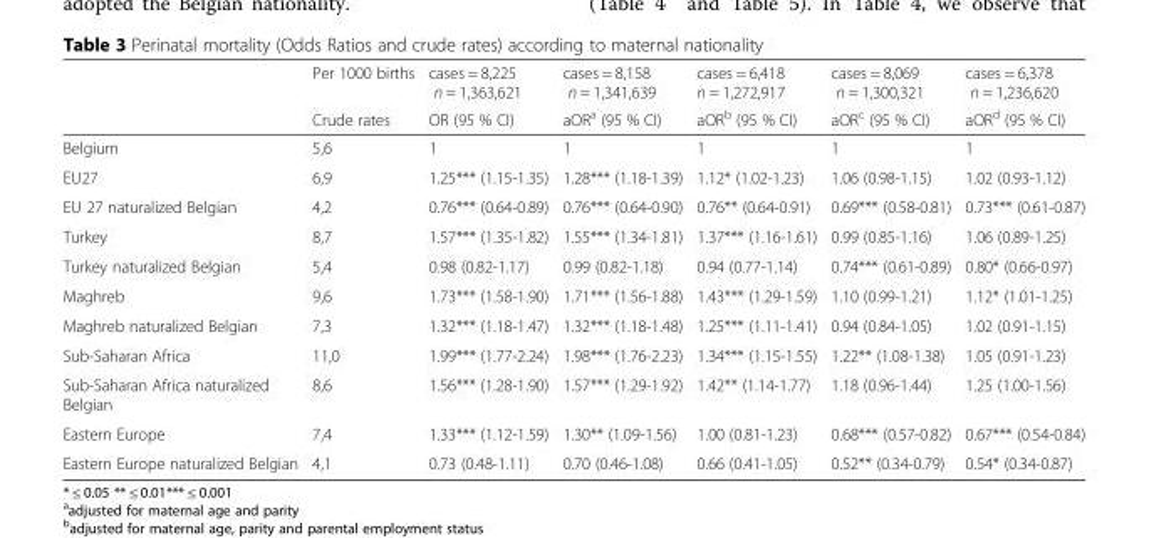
<table><thead><tr><td rowspan="2"></td><td rowspan="2">Per 1000 births Crude rates</td><td rowspan="2">cases = 8,225 n = 1,363,621 OR (95 % CI)</td><td rowspan="2">cases = 8,158 n = 1,341,639 aOR<sup>a</sup> (95 % CI)</td><td rowspan="2">cases = 6,418 n = 1,272,917 aOR<sup>b</sup> (95 % CI)</td><td rowspan="2">cases = 8,069 n = 1,300,321 aOR<sup>c</sup> (95 % CI)</td><td rowspan="2">cases = 6,378 n = 1,236,620 aOR<sup>d</sup> (95 % CI)</td></tr><tr></tr></thead><tbody><tr><td>Belgium</td><td>5,6</td><td>1</td><td>1</td><td>1</td><td>1</td><td>1</td></tr><tr><td>EU27</td><td>6,9</td><td>1.25*** (1.15-1.35)</td><td>1.28*** (1.18-1.39)</td><td>1.12* (1.02-1.23)</td><td>1.06 (0.98-1.15)</td><td>1.02 (0.93-1.12)</td></tr><tr><td>EU 27 naturalized Belgian</td><td>4,2</td><td>0.76*** (0.64-0.89)</td><td>0.76*** (0.64-0.90)</td><td>0.76** (0.64-0.91)</td><td>0.69*** (0.58-0.81)</td><td>0.73*** (0.61-0.87)</td></tr><tr><td>Turkey</td><td>8,7</td><td>1.57*** (1.35-1.82)</td><td>1.55*** (1.34-1.81)</td><td>1.37*** (1.16-1.61)</td><td>0.99 (0.85-1.16)</td><td>1.06 (0.89-1.25)</td></tr><tr><td>Turkey naturalized Belgian</td><td>5,4</td><td>0.98 (0.82-1.17)</td><td>0.99 (0.82-1.18)</td><td>0.94 (0.77-1.14)</td><td>0.74*** (0.61-0.89)</td><td>0.80* (0.66-0.97)</td></tr><tr><td>Maghreb</td><td>9,6</td><td>1.73*** (1.58-1.90)</td><td>1.71*** (1.56-1.88)</td><td>1.43*** (1.29-1.59)</td><td>1.10 (0.99-1.21)</td><td>1.12* (1.01-1.25)</td></tr><tr><td>Maghreb naturalized Belgian</td><td>7,3</td><td>1.32*** (1.18-1.47)</td><td>1.32*** (1.18-1.48)</td><td>1.25*** (1.11-1.41)</td><td>0.94 (0.84-1.05)</td><td>1.02 (0.91-1.15)</td></tr><tr><td>Sub-Saharan Africa</td><td>11,0</td><td>1.99*** (1.77-2.24)</td><td>1.98*** (1.76-2.23)</td><td>1.34*** (1.15-1.55)</td><td>1.22** (1.08-1.38)</td><td>1.05 (0.91-1.23)</td></tr><tr><td>Sub-Saharan Africa naturalized Belgian</td><td>8,6</td><td>1.56*** (1.28-1.90)</td><td>1.57*** (1.29-1.92)</td><td>1.42** (1.14-1.77)</td><td>1.18 (0.96-1.44)</td><td>1.25 (1.00-1.56)</td></tr><tr><td>Eastern Europe</td><td>7,4</td><td>1.33*** (1.12-1.59)</td><td>1.30** (1.09-1.56)</td><td>1.00 (0.81-1.23)</td><td>0.68*** (0.57-0.82)</td><td>0.67*** (0.54-0.84)</td></tr><tr><td>Eastern Europe naturalized Belgian</td><td>4,1</td><td>0.73 (0.48-1.11)</td><td>0.70 (0.46-1.08)</td><td>0.66 (0.41-1.05)</td><td>0.52** (0.34-0.79)</td><td>0.54* (0.34-0.87)</td></tr></tbody></table>